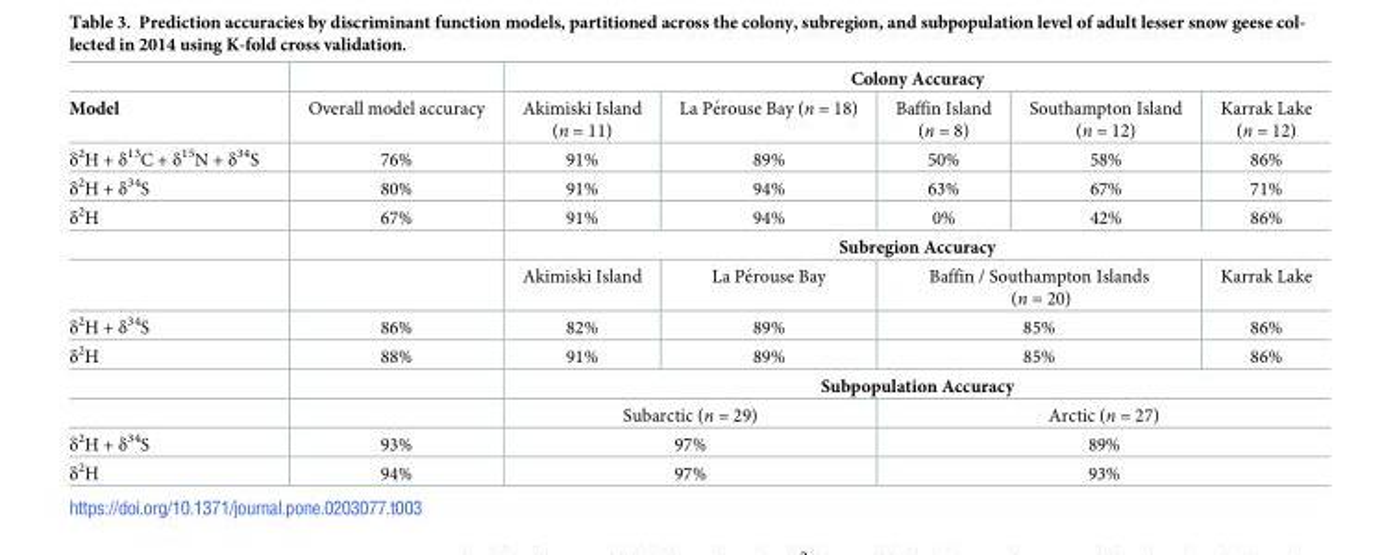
<table><thead><tr><td rowspan="2">Model</td><td rowspan="2">Overall model accuracy</td><td colspan="5">Colony Accuracy</td></tr><tr><td>Akimiski Island (n = 11)</td><td>La Pe´rouse Bay (n = 18)</td><td>Baffin Island (n = 8)</td><td>Southampton Island (n = 12)</td><td>Karrak Lake (n = 12)</td></tr></thead><tbody><tr><td>δ<sup>2</sup>H + δ<sup>13</sup>C + δ<sup>15</sup>N + δ<sup>34</sup>S</td><td>76%</td><td>91%</td><td>89%</td><td>50%</td><td>58%</td><td>86%</td></tr><tr><td>δ<sup>2</sup>H + δ<sup>34</sup>S</td><td>80%</td><td>91%</td><td>94%</td><td>63%</td><td>67%</td><td>71%</td></tr><tr><td rowspan="3">δ<sup>2</sup>H</td><td>67%</td><td>91%</td><td>94%</td><td>0%</td><td>42%</td><td>86%</td></tr><tr><td></td><td colspan="5">Subregion Accuracy</td></tr><tr><td></td><td>Akimiski Island</td><td>La Pe´rouse Bay</td><td colspan="2">Baffin / Southampton Islands (n = 20)</td><td>Karrak Lake</td></tr><tr><td>δ<sup>2</sup>H + δ<sup>34</sup>S</td><td>86%</td><td>82%</td><td>89%</td><td colspan="2">85%</td><td>86%</td></tr><tr><td rowspan="3">δ<sup>2</sup>H</td><td>88%</td><td>91%</td><td>89%</td><td colspan="2">85%</td><td>86%</td></tr><tr><td></td><td colspan="5">Subpopulation Accuracy</td></tr><tr><td></td><td colspan="2">Subarctic (n = 29)</td><td colspan="3">Arctic (n = 27)</td></tr><tr><td>δ<sup>2</sup>H + δ<sup>34</sup>S</td><td>93%</td><td colspan="2">97%</td><td colspan="3">89%</td></tr><tr><td>δ<sup>2</sup>H</td><td>94%</td><td colspan="2">97%</td><td colspan="3">93%</td></tr></tbody></table>